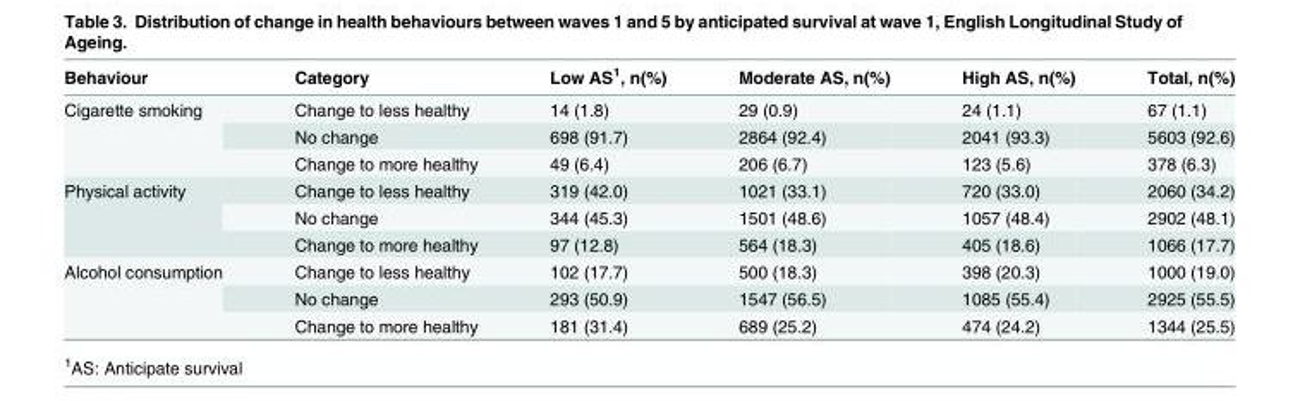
<table><thead><tr><td>Behaviour</td><td>Category</td><td>Low AS<sup>1</sup>, n(%)</td><td>Moderate AS, n(%)</td><td>High AS, n(%)</td><td>Total, n(%)</td></tr></thead><tbody><tr><td rowspan="3">Cigarette smoking</td><td>Change to less healthy</td><td>14 (1.8)</td><td>29 (0.9)</td><td>24 (1.1)</td><td>67 (1.1)</td></tr><tr><td>No change</td><td>698 (91.7)</td><td>2864 (92.4)</td><td>2041 (93.3)</td><td>5603 (92.6)</td></tr><tr><td>Change to more healthy</td><td>49 (6.4)</td><td>206 (6.7)</td><td>123 (5.6)</td><td>378 (6.3)</td></tr><tr><td rowspan="3">Physical activity</td><td>Change to less healthy</td><td>319 (42.0)</td><td>1021 (33.1)</td><td>720 (33.0)</td><td>2060 (34.2)</td></tr><tr><td>No change</td><td>344 (45.3)</td><td>1501 (48.6)</td><td>1057 (48.4)</td><td>2902 (48.1)</td></tr><tr><td>Change to more healthy</td><td>97 (12.8)</td><td>564 (18.3)</td><td>405 (18.6)</td><td>1066 (17.7)</td></tr><tr><td rowspan="3">Alcohol consumption</td><td>Change to less healthy</td><td>102 (17.7)</td><td>500 (18.3)</td><td>398 (20.3)</td><td>1000 (19.0)</td></tr><tr><td>No change</td><td>293 (50.9)</td><td>1547 (56.5)</td><td>1085 (55.4)</td><td>2925 (55.5)</td></tr><tr><td>Change to more healthy</td><td>181 (31.4)</td><td>689 (25.2)</td><td>474 (24.2)</td><td>1344 (25.5)</td></tr></tbody></table>